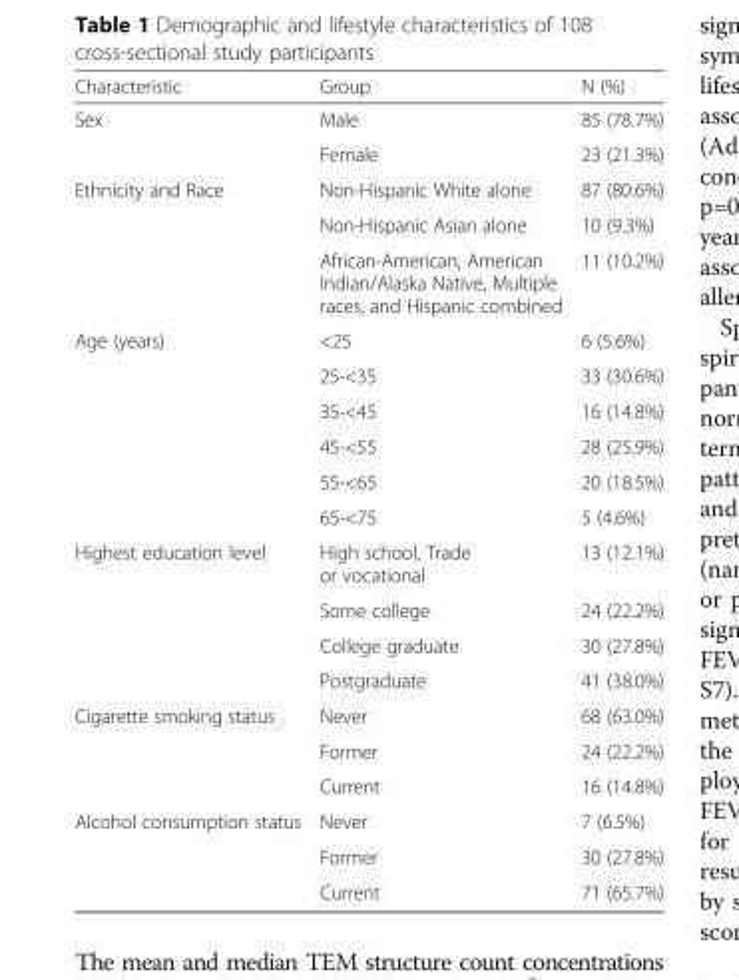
<table><thead><tr><td>Characteristic</td><td>Group</td><td>N (%)</td></tr></thead><tbody><tr><td rowspan="2">Sex</td><td>Male</td><td>85 (78.7%)</td></tr><tr><td>Female</td><td>23 (21.3%)</td></tr><tr><td rowspan="3">Ethnicity and Race</td><td>Non-Hispanic White alone</td><td>87 (80.6%)</td></tr><tr><td>Non-Hispanic Asian alone</td><td>10 (9.3%)</td></tr><tr><td>African-American, American Indian/Alaska Native, Multiple races, and Hispanic combined</td><td>11 (10.2%)</td></tr><tr><td rowspan="6">Age (years)</td><td>&lt;25</td><td>6 (5.6%)</td></tr><tr><td>25-&lt;35</td><td>33 (30.6%)</td></tr><tr><td>35-&lt;45</td><td>16 (14.8%)</td></tr><tr><td>45-&lt;55</td><td>28 (25.9%)</td></tr><tr><td>55-&lt;65</td><td>20 (18.5%)</td></tr><tr><td>65-&lt;75</td><td>5 (4.6%)</td></tr><tr><td rowspan="4">Highest education level</td><td>High school, Trade or vocational</td><td>13 (12.1%)</td></tr><tr><td>Some college</td><td>24 (22.2%)</td></tr><tr><td>College graduate</td><td>30 (27.8%)</td></tr><tr><td>Postgraduate</td><td>41 (38.0%)</td></tr><tr><td rowspan="3">Cigarette smoking status</td><td>Never</td><td>68 (63.0%)</td></tr><tr><td>Former</td><td>24 (22.2%)</td></tr><tr><td>Current</td><td>16 (14.8%)</td></tr><tr><td rowspan="3">Alcohol consumption status</td><td>Never</td><td>7 (6.5%)</td></tr><tr><td>Former</td><td>30 (27.8%)</td></tr><tr><td>Current</td><td>71 (65.7%)</td></tr></tbody></table>